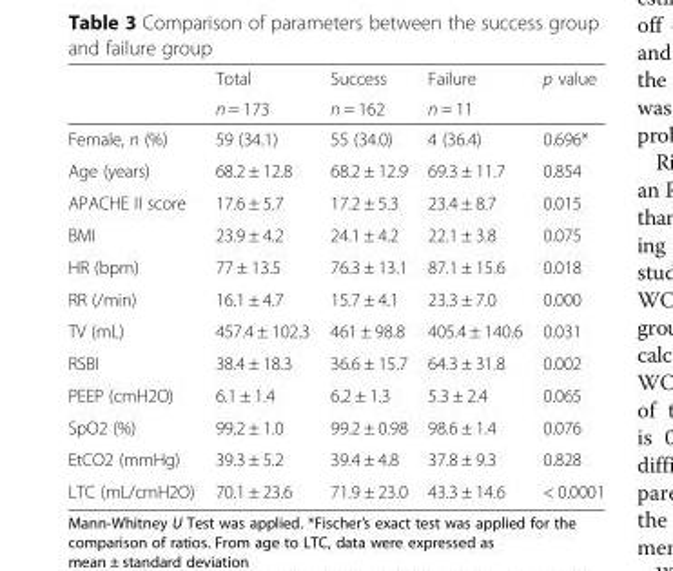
<table><thead><tr><td rowspan="2"></td><td rowspan="2">Total n = 173</td><td rowspan="2">Success n = 162</td><td rowspan="2">Failure n = 11</td><td rowspan="2">p value</td></tr><tr></tr></thead><tbody><tr><td>Female, n (%)</td><td>59 (34.1)</td><td>55 (34.0)</td><td>4 (36.4)</td><td>0.696*</td></tr><tr><td>Age (years)</td><td>68.2 ± 12.8</td><td>68.2 ± 12.9</td><td>69.3 ± 11.7</td><td>0.854</td></tr><tr><td>APACHE II score</td><td>17.6 ± 5.7</td><td>17.2 ± 5.3</td><td>23.4 ± 8.7</td><td>0.015</td></tr><tr><td>BMI</td><td>23.9 ± 4.2</td><td>24.1 ± 4.2</td><td>22.1 ± 3.8</td><td>0.075</td></tr><tr><td>HR (bpm)</td><td>77 ± 13.5</td><td>76.3 ± 13.1</td><td>87.1 ± 15.6</td><td>0.018</td></tr><tr><td>RR (/min)</td><td>16.1 ± 4.7</td><td>15.7 ± 4.1</td><td>23.3 ± 7.0</td><td>0.000</td></tr><tr><td>TV (mL)</td><td>457.4 ± 102.3</td><td>461 ± 98.8</td><td>405.4 ± 140.6</td><td>0.031</td></tr><tr><td>RSBI</td><td>38.4 ± 18.3</td><td>36.6 ± 15.7</td><td>64.3 ± 31.8</td><td>0.002</td></tr><tr><td>PEEP (cmH2O)</td><td>6.1 ± 1.4</td><td>6.2 ± 1.3</td><td>5.3 ± 2.4</td><td>0.065</td></tr><tr><td>SpO2 (%)</td><td>99.2 ± 1.0</td><td>99.2 ± 0.98</td><td>98.6 ± 1.4</td><td>0.076</td></tr><tr><td>EtCO2 (mmHg)</td><td>39.3 ± 5.2</td><td>39.4 ± 4.8</td><td>37.8 ± 9.3</td><td>0.828</td></tr><tr><td>LTC (mL/cmH2O)</td><td>70.1 ± 23.6</td><td>71.9 ± 23.0</td><td>43.3 ± 14.6</td><td>&lt; 0.0001</td></tr></tbody></table>